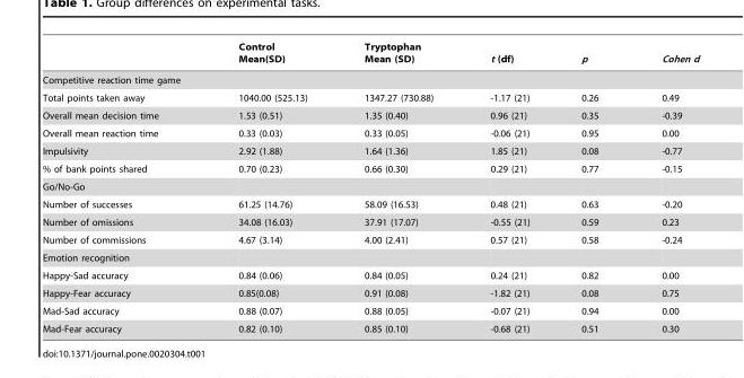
<table><thead><tr><td></td><td>Control Mean(SD)</td><td>Tryptophan Mean (SD)</td><td>t (df)</td><td>p</td><td>Cohen d</td></tr></thead><tbody><tr><td colspan="6">Competitive reaction time game</td></tr><tr><td>Total points taken away</td><td>1040.00 (525.13)</td><td>1347.27 (730.88)</td><td>-1.17 (21)</td><td>0.26</td><td>0.49</td></tr><tr><td>Overall mean decision time</td><td>1.53 (0.51)</td><td>1.35 (0.40)</td><td>0.96 (21)</td><td>0.35</td><td>-0.39</td></tr><tr><td>Overall mean reaction time</td><td>0.33 (0.03)</td><td>0.33 (0.05)</td><td>-0.06 (21)</td><td>0.95</td><td>0.00</td></tr><tr><td>Impulsivity</td><td>2.92 (1.88)</td><td>1.64 (1.36)</td><td>1.85 (21)</td><td>0.08</td><td>-0.77</td></tr><tr><td>% of bank points shared</td><td>0.70 (0.23)</td><td>0.66 (0.30)</td><td>0.29 (21)</td><td>0.77</td><td>-0.15</td></tr><tr><td colspan="6">Go/No-Go</td></tr><tr><td>Number of successes</td><td>61.25 (14.76)</td><td>58.09 (16.53)</td><td>0.48 (21)</td><td>0.63</td><td>-0.20</td></tr><tr><td>Number of omissions</td><td>34.08 (16.03)</td><td>37.91 (17.07)</td><td>-0.55 (21)</td><td>0.59</td><td>0.23</td></tr><tr><td>Number of commissions</td><td>4.67 (3.14)</td><td>4.00 (2.41)</td><td>0.57 (21)</td><td>0.58</td><td>-0.24</td></tr><tr><td colspan="6">Emotion recognition</td></tr><tr><td>Happy-Sad accuracy</td><td>0.84 (0.06)</td><td>0.84 (0.05)</td><td>0.24 (21)</td><td>0.82</td><td>0.00</td></tr><tr><td>Happy-Fear accuracy</td><td>0.85(0.08)</td><td>0.91 (0.08)</td><td>-1.82 (21)</td><td>0.08</td><td>0.75</td></tr><tr><td>Mad-Sad accuracy</td><td>0.88 (0.07)</td><td>0.88 (0.05)</td><td>-0.07 (21)</td><td>0.94</td><td>0.00</td></tr><tr><td>Mad-Fear accuracy</td><td>0.82 (0.10)</td><td>0.85 (0.10)</td><td>-0.68 (21)</td><td>0.51</td><td>0.30</td></tr></tbody></table>